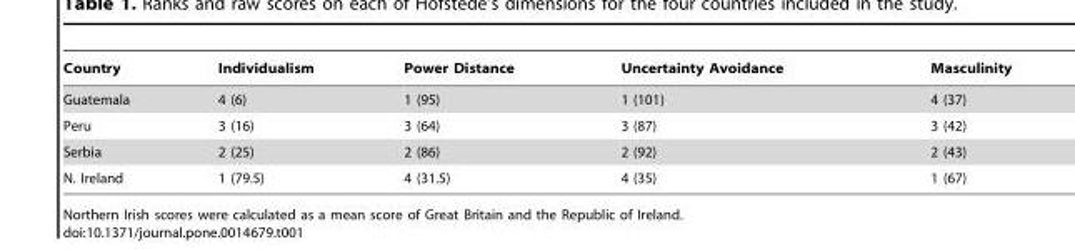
<table><thead><tr><td>Country</td><td>Individualism</td><td>Power Distance</td><td>Uncertainty Avoidance</td><td>Masculinity</td></tr></thead><tbody><tr><td>Guatemala</td><td>4 (6)</td><td>1 (95)</td><td>1 (101)</td><td>4 (37)</td></tr><tr><td>Peru</td><td>3 (16)</td><td>3 (64)</td><td>3 (87)</td><td>3 (42)</td></tr><tr><td>Serbia</td><td>2 (25)</td><td>2 (86)</td><td>2 (92)</td><td>2 (43)</td></tr><tr><td>N. Ireland</td><td>1 (79.5)</td><td>4 (31.5)</td><td>4 (35)</td><td>1 (67)</td></tr></tbody></table>